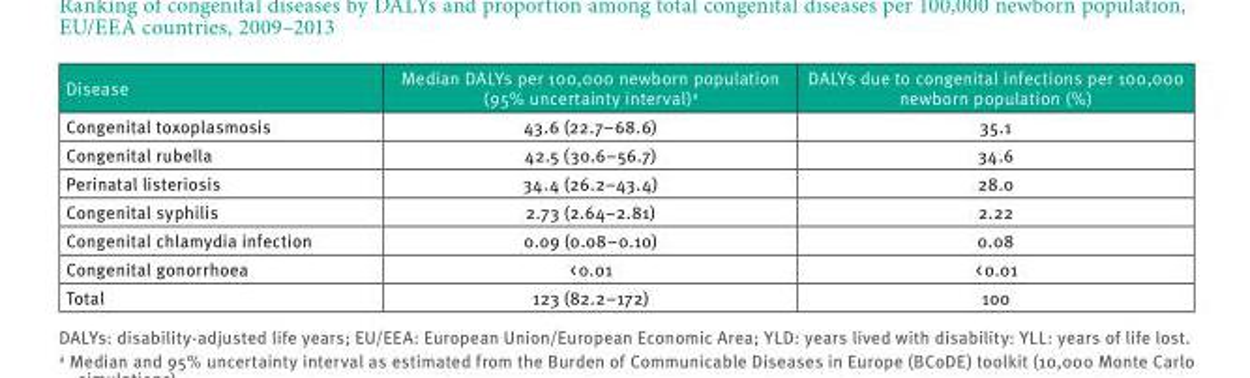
<table><thead><tr><td>Disease</td><td>Median DALYs per 100,000 newborn population (95% uncertainty interval)<sup>a</sup></td><td>DALYs due to congenital infections per 100,000 newborn population (%)</td></tr></thead><tbody><tr><td>Congenital toxoplasmosis</td><td>43.6 (22.7–68.6)</td><td>35.1</td></tr><tr><td>Congenital rubella</td><td>42.5 (30.6–56.7)</td><td>34.6</td></tr><tr><td>Perinatal listeriosis</td><td>34.4 (26.2–43.4)</td><td>28.0</td></tr><tr><td>Congenital syphilis</td><td>2.73 (2.64–2.81)</td><td>2.22</td></tr><tr><td>Congenital chlamydia infection</td><td>0.09 (0.08–0.10)</td><td>0.08</td></tr><tr><td>Congenital gonorrhoea</td><td>&lt; 0.01</td><td>&lt; 0.01</td></tr><tr><td>Total</td><td>123 (82.2–172)</td><td>100</td></tr></tbody></table>